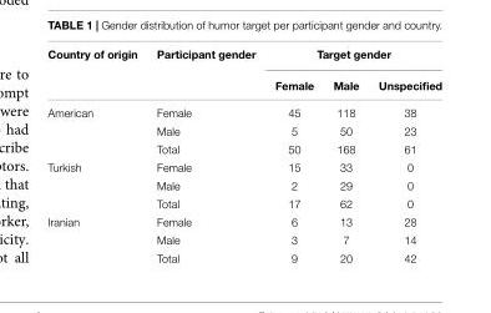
<table><thead><tr><td rowspan="2">Country of origin</td><td rowspan="2">Participant gender</td><td colspan="3">Target gender</td></tr><tr><td>Female</td><td>Male</td><td>Unspecified</td></tr></thead><tbody><tr><td rowspan="3">American</td><td>Female</td><td>45</td><td>118</td><td>38</td></tr><tr><td>Male</td><td>5</td><td>50</td><td>23</td></tr><tr><td>Total</td><td>50</td><td>168</td><td>61</td></tr><tr><td rowspan="3">Turkish</td><td>Female</td><td>15</td><td>33</td><td>0</td></tr><tr><td>Male</td><td>2</td><td>29</td><td>0</td></tr><tr><td>Total</td><td>17</td><td>62</td><td>0</td></tr><tr><td rowspan="3">Iranian</td><td>Female</td><td>6</td><td>13</td><td>28</td></tr><tr><td>Male</td><td>3</td><td>7</td><td>14</td></tr><tr><td>Total</td><td>9</td><td>20</td><td>42</td></tr></tbody></table>